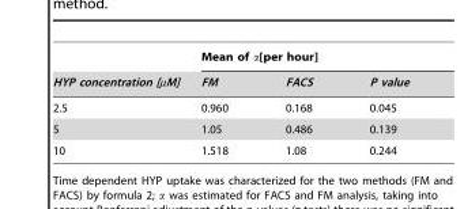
<table><thead><tr><td rowspan="2">HYP concentration [µM]</td><td colspan="3">Mean of a[per hour]</td></tr><tr><td>FM</td><td>FACS</td><td>P value</td></tr></thead><tbody><tr><td>2.5</td><td>0.960</td><td>0.168</td><td>0.045</td></tr><tr><td>5</td><td>1.05</td><td>0.486</td><td>0.139</td></tr><tr><td>10</td><td>1.518</td><td>1.08</td><td>0.244</td></tr></tbody></table>